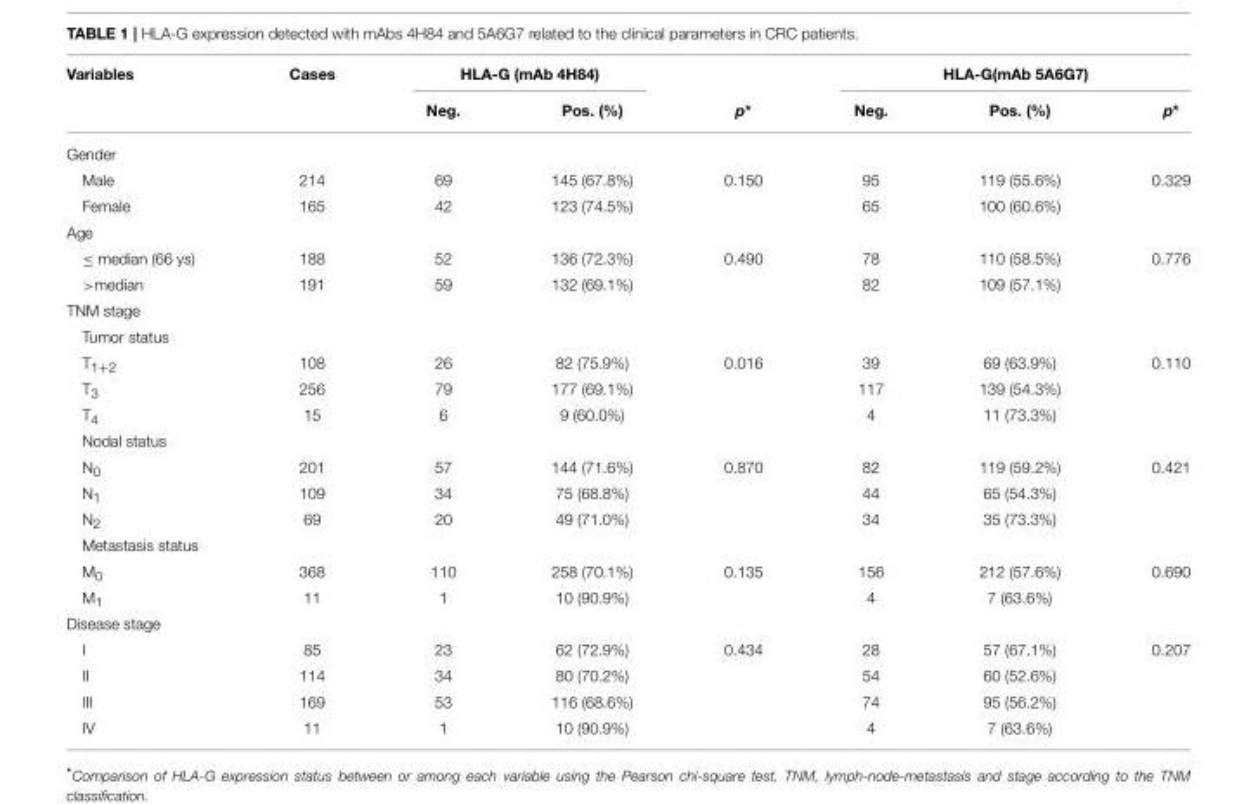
<table><thead><tr><td rowspan="2">Variables</td><td rowspan="2">Cases</td><td colspan="2">HLA-G (mAb 4H84)</td><td rowspan="2">p*</td><td colspan="3">HLA-G(mAb 5A6G7)</td></tr><tr><td>Neg.</td><td>Pos. (%)</td><td>Neg.</td><td>Pos. (%)</td><td>p*</td></tr></thead><tbody><tr><td colspan="8">Gender</td></tr><tr><td>Male</td><td>214</td><td>69</td><td>145 (67.8%)</td><td>0.150</td><td>95</td><td>119 (55.6%)</td><td>0.329</td></tr><tr><td>Female</td><td>165</td><td>42</td><td>123 (74.5%)</td><td></td><td>65</td><td>100 (60.6%)</td><td></td></tr><tr><td colspan="8">Age</td></tr><tr><td>≤ median (66 ys)</td><td>188</td><td>52</td><td>136 (72.3%)</td><td>0.490</td><td>78</td><td>110 (58.5%)</td><td>0.776</td></tr><tr><td>&gt;median</td><td>191</td><td>59</td><td>132 (69.1%)</td><td></td><td>82</td><td>109 (57.1%)</td><td></td></tr><tr><td colspan="8">TNM stage</td></tr><tr><td colspan="8">Tumor status</td></tr><tr><td>T<sub>1+2</sub></td><td>108</td><td>26</td><td>82 (75.9%)</td><td>0.016</td><td>39</td><td>69 (63.9%)</td><td>0.110</td></tr><tr><td>T<sub>3</sub></td><td>256</td><td>79</td><td>177 (69.1%)</td><td></td><td>117</td><td>139 (54.3%)</td><td></td></tr><tr><td>T<sub>4</sub></td><td>15</td><td>6</td><td>9 (60.0%)</td><td></td><td>4</td><td>11 (73.3%)</td><td></td></tr><tr><td colspan="8">Nodal status</td></tr><tr><td>N<sub>0</sub></td><td>201</td><td>57</td><td>144 (71.6%)</td><td>0.870</td><td>82</td><td>119 (59.2%)</td><td>0.421</td></tr><tr><td>N<sub>1</sub></td><td>109</td><td>34</td><td>75 (68.8%)</td><td></td><td>44</td><td>65 (54.3%)</td><td></td></tr><tr><td>N<sub>2</sub></td><td>69</td><td>20</td><td>49 (71.0%)</td><td></td><td>34</td><td>35 (73.3%)</td><td></td></tr><tr><td colspan="8">Metastasis status</td></tr><tr><td>M<sub>0</sub></td><td>368</td><td>110</td><td>258 (70.1%)</td><td>0.135</td><td>156</td><td>212 (57.6%)</td><td>0.690</td></tr><tr><td>M<sub>1</sub></td><td>11</td><td>1</td><td>10 (90.9%)</td><td></td><td>4</td><td>7 (63.6%)</td><td></td></tr><tr><td colspan="8">Disease stage</td></tr><tr><td>I</td><td>85</td><td>23</td><td>62 (72.9%)</td><td>0.434</td><td>28</td><td>57 (67.1%)</td><td>0.207</td></tr><tr><td>II</td><td>114</td><td>34</td><td>80 (70.2%)</td><td></td><td>54</td><td>60 (52.6%)</td><td></td></tr><tr><td>III</td><td>169</td><td>53</td><td>116 (68.6%)</td><td></td><td>74</td><td>95 (56.2%)</td><td></td></tr><tr><td>IV</td><td>11</td><td>1</td><td>10 (90.9%)</td><td></td><td>4</td><td>7 (63.6%)</td><td></td></tr></tbody></table>